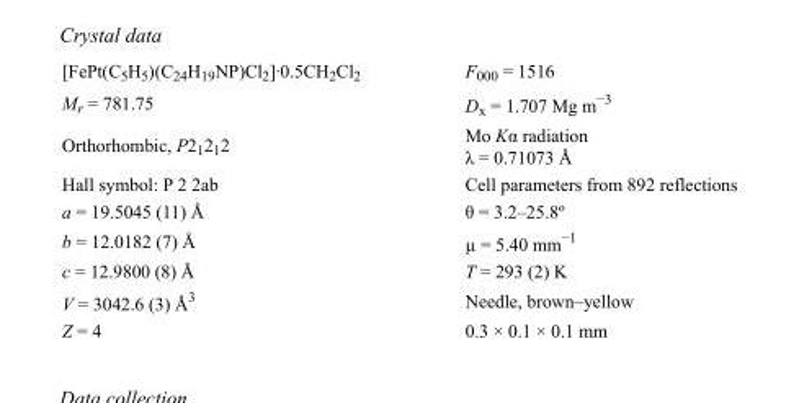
<table><tbody><tr><td>[FePt(C<sub>5</sub>H<sub>5</sub>)(C<sub>24</sub>H<sub>19</sub>NP)Cl<sub>2</sub>]·0.5CH<sub>2</sub>Cl<sub>2</sub></td><td>F000 = 1516</td></tr><tr><td>M<sub>r</sub> = 781.75</td><td>D<sub>x</sub> = 1.707 Mg m<sup>−3</sup></td></tr><tr><td>Orthorhombic, P2<sub>1</sub>2<sub>1</sub>2</td><td>Mo Kα radiation λ = 0.71073 Å</td></tr><tr><td>Hall symbol: P 2 2ab</td><td>Cell parameters from 892 reflections</td></tr><tr><td>a = 19.5045 (11) Å</td><td>θ = 3.2–25.8º</td></tr><tr><td>b = 12.0182 (7) Å</td><td>µ = 5.40 mm<sup>−1</sup></td></tr><tr><td>c = 12.9800 (8) Å</td><td>T = 293 (2) K</td></tr><tr><td>V = 3042.6 (3) Å<sup>3</sup></td><td>Needle, brown–yellow</td></tr><tr><td>Z = 4</td><td>0.3 × 0.1 × 0.1 mm</td></tr></tbody></table>